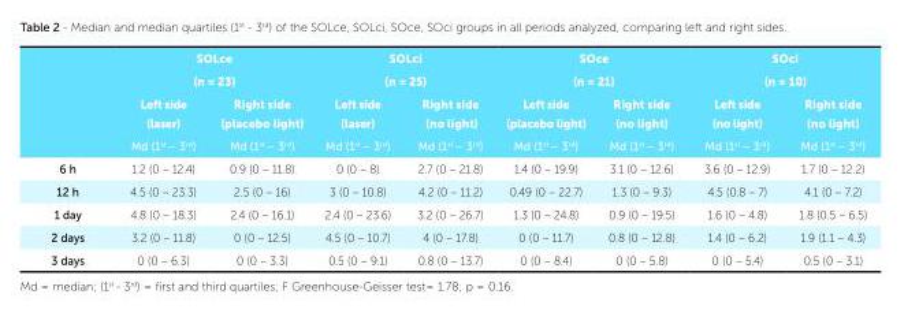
<table><thead><tr><td rowspan="4"></td><td rowspan="2" colspan="2">SOLce (n = 23)</td><td rowspan="2" colspan="2">SOLci (n = 25)</td><td rowspan="2" colspan="2">SOce (n = 21)</td><td rowspan="2" colspan="2">SOci (n = 10)</td></tr><tr></tr><tr><td rowspan="2">Left side (laser) Md (1<sup>st</sup> – 3<sup>rd</sup>)</td><td rowspan="2">Right side (placebo light) Md (1<sup>st</sup> – 3<sup>rd</sup>)</td><td rowspan="2">Left side (laser) Md (1<sup>st</sup> – 3<sup>rd</sup>)</td><td rowspan="2">Right side (no light) Md (1<sup>st</sup> – 3<sup>rd</sup>)</td><td rowspan="2">Left side (placebo light) Md (1<sup>st</sup> – 3<sup>rd</sup>)</td><td rowspan="2">Right side (no light) Md (1<sup>st</sup> – 3<sup>rd</sup>)</td><td rowspan="2">Left side (no light) Md (1<sup>st</sup> – 3<sup>rd</sup>)</td><td rowspan="2">Right side (no light) Md (1<sup>st</sup> – 3<sup>rd</sup>)</td></tr><tr></tr></thead><tbody><tr><td>6 h</td><td>1.2 (0 – 12.4)</td><td>0.9 (0 – 11.8)</td><td>0 (0 – 8)</td><td>2.7 (0 – 21.8)</td><td>1.4 (0 – 19.9)</td><td>3.1 (0 – 12.6)</td><td>3.6 (0 – 12.9)</td><td>1.7 (0 – 12.2)</td></tr><tr><td>12 h</td><td>4.5 (0 – 23.3)</td><td>2.5 (0 – 16)</td><td>3 (0 – 10.8)</td><td>4.2 (0 – 11.2)</td><td>0.49 (0 – 22.7)</td><td>1.3 (0 – 9.3)</td><td>4.5 (0.8 – 7)</td><td>4.1 (0 – 7.2)</td></tr><tr><td>1 day</td><td>4.8 (0 – 18.3)</td><td>2.4 (0 – 16.1)</td><td>2.4 (0 – 23.6)</td><td>3.2 (0 – 26.7)</td><td>1.3 (0 – 24.8)</td><td>0.9 (0 – 19.5)</td><td>1.6 (0 – 4.8)</td><td>1.8 (0.5 – 6.5)</td></tr><tr><td>2 days</td><td>3.2 (0 – 11.8)</td><td>0 (0 – 12.5)</td><td>4.5 (0 – 10.7)</td><td>4 (0 – 17.8)</td><td>0 (0 – 11.7)</td><td>0.8 (0 – 12.8)</td><td>1.4 (0 – 6.2)</td><td>1.9 (1.1 – 4.3)</td></tr><tr><td>3 days</td><td>0 (0 – 6.3)</td><td>0 (0 – 3.3)</td><td>0.5 (0 – 9.1)</td><td>0.8 (0 – 13.7)</td><td>0 (0 – 8.4)</td><td>0 (0 – 5.8)</td><td>0 (0 – 5.4)</td><td>0.5 (0 – 3.1)</td></tr></tbody></table>